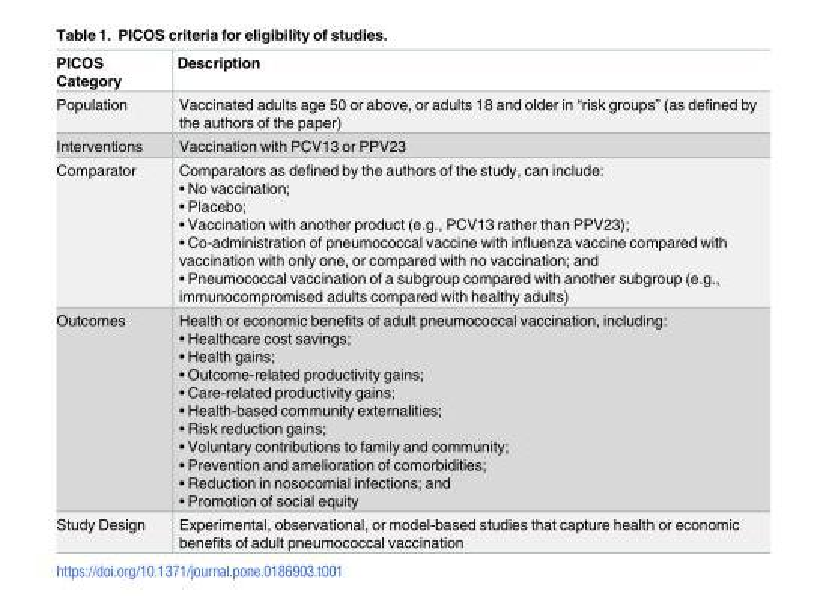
<table><thead><tr><td>PICOS Category</td><td>Description</td></tr></thead><tbody><tr><td>Population</td><td>Vaccinated adults age 50 or above, or adults 18 and older in “risk groups” (as defined by the authors of the paper)</td></tr><tr><td>Interventions</td><td>Vaccination with PCV13 or PPV23</td></tr><tr><td>Comparator</td><td>Comparators as defined by the authors of the study, can include: • No vaccination; • Placebo; • Vaccination with another product (e.g., PCV13 rather than PPV23); • Co-administration of pneumococcal vaccine with influenza vaccine compared with vaccination with only one, or compared with no vaccination; and • Pneumococcal vaccination of a subgroup compared with another subgroup (e.g., immunocompromised adults compared with healthy adults)</td></tr><tr><td>Outcomes</td><td>Health or economic benefits of adult pneumococcal vaccination, including: • Healthcare cost savings; • Health gains; • Outcome-related productivity gains; • Care-related productivity gains; • Health-based community externalities; • Risk reduction gains; • Voluntary contributions to family and community; • Prevention and amelioration of comorbidities; • Reduction in nosocomial infections; and • Promotion of social equity</td></tr><tr><td>Study Design</td><td>Experimental, observational, or model-based studies that capture health or economic benefits of adult pneumococcal vaccination</td></tr></tbody></table>